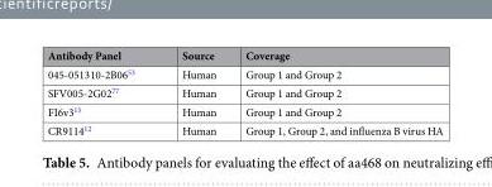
<table><thead><tr><td>Antibody Panel</td><td>Source</td><td>Coverage</td></tr></thead><tbody><tr><td>045-051310-2B06<sup>53</sup></td><td>Human</td><td>Group 1 and Group 2</td></tr><tr><td>SFV005-2G02<sup>77</sup></td><td>Human</td><td>Group 1 and Group 2</td></tr><tr><td>FI6v3<sup>13</sup></td><td>Human</td><td>Group 1 and Group 2</td></tr><tr><td>CR9114<sup>12</sup></td><td>Human</td><td>Group 1, Group 2, and influenza B virus HA</td></tr></tbody></table>